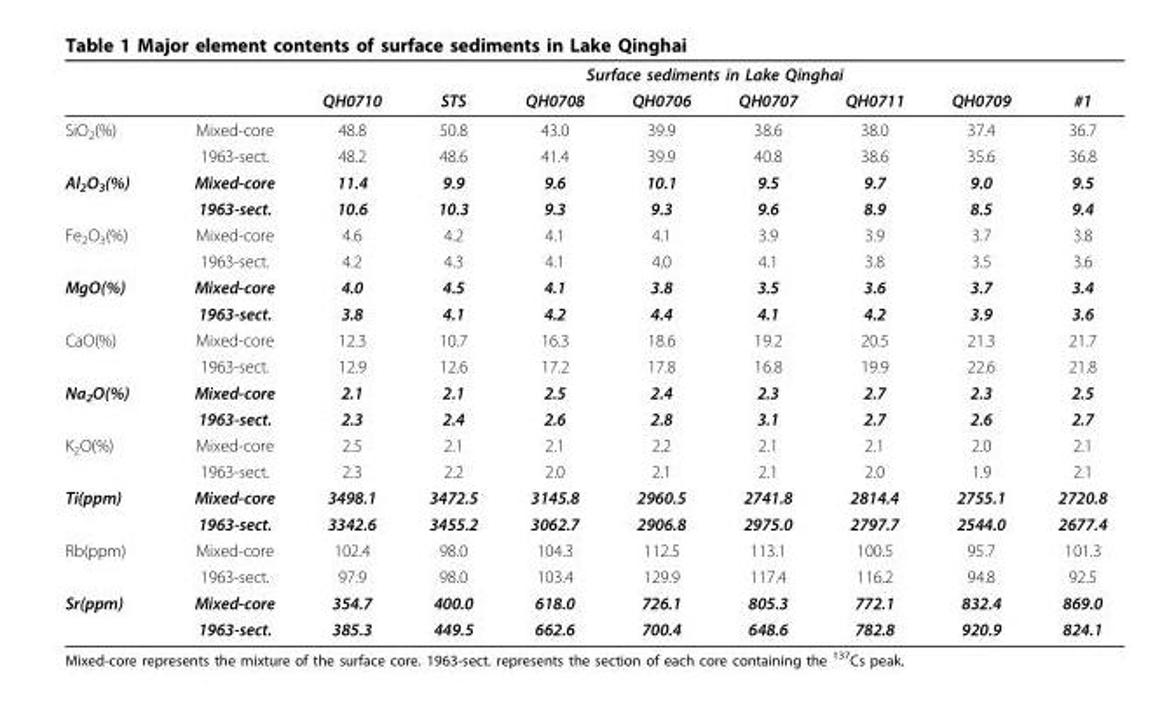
<table><thead><tr><td rowspan="2"></td><td rowspan="2"></td><td colspan="8">Surface sediments in Lake Qinghai</td></tr><tr><td>QH0710</td><td>STS</td><td>QH0708</td><td>QH0706</td><td>QH0707</td><td>QH0711</td><td>QH0709</td><td>#1</td></tr></thead><tbody><tr><td rowspan="2">SiO<sub>2</sub>(%)</td><td>Mixed-core</td><td>48.8</td><td>50.8</td><td>43.0</td><td>39.9</td><td>38.6</td><td>38.0</td><td>37.4</td><td>36.7</td></tr><tr><td>1963-sect.</td><td>48.2</td><td>48.6</td><td>41.4</td><td>39.9</td><td>40.8</td><td>38.6</td><td>35.6</td><td>36.8</td></tr><tr><td rowspan="2">Al<sub>2</sub>O<sub>3</sub>(%)</td><td>Mixed-core</td><td>11.4</td><td>9.9</td><td>9.6</td><td>10.1</td><td>9.5</td><td>9.7</td><td>9.0</td><td>9.5</td></tr><tr><td>1963-sect.</td><td>10.6</td><td>10.3</td><td>9.3</td><td>9.3</td><td>9.6</td><td>8.9</td><td>8.5</td><td>9.4</td></tr><tr><td rowspan="2">Fe<sub>2</sub>O<sub>3</sub>(%)</td><td>Mixed-core</td><td>4.6</td><td>4.2</td><td>4.1</td><td>4.1</td><td>3.9</td><td>3.9</td><td>3.7</td><td>3.8</td></tr><tr><td>1963-sect.</td><td>4.2</td><td>4.3</td><td>4.1</td><td>4.0</td><td>4.1</td><td>3.8</td><td>3.5</td><td>3.6</td></tr><tr><td rowspan="2">MgO(%)</td><td>Mixed-core</td><td>4.0</td><td>4.5</td><td>4.1</td><td>3.8</td><td>3.5</td><td>3.6</td><td>3.7</td><td>3.4</td></tr><tr><td>1963-sect.</td><td>3.8</td><td>4.1</td><td>4.2</td><td>4.4</td><td>4.1</td><td>4.2</td><td>3.9</td><td>3.6</td></tr><tr><td rowspan="2">CaO(%)</td><td>Mixed-core</td><td>12.3</td><td>10.7</td><td>16.3</td><td>18.6</td><td>19.2</td><td>20.5</td><td>21.3</td><td>21.7</td></tr><tr><td>1963-sect.</td><td>12.9</td><td>12.6</td><td>17.2</td><td>17.8</td><td>16.8</td><td>19.9</td><td>22.6</td><td>21.8</td></tr><tr><td rowspan="2">Na<sub>2</sub>O(%)</td><td>Mixed-core</td><td>2.1</td><td>2.1</td><td>2.5</td><td>2.4</td><td>2.3</td><td>2.7</td><td>2.3</td><td>2.5</td></tr><tr><td>1963-sect.</td><td>2.3</td><td>2.4</td><td>2.6</td><td>2.8</td><td>3.1</td><td>2.7</td><td>2.6</td><td>2.7</td></tr><tr><td rowspan="2">K<sub>2</sub>O(%)</td><td>Mixed-core</td><td>2.5</td><td>2.1</td><td>2.1</td><td>2.2</td><td>2.1</td><td>2.1</td><td>2.0</td><td>2.1</td></tr><tr><td>1963-sect.</td><td>2.3</td><td>2.2</td><td>2.0</td><td>2.1</td><td>2.1</td><td>2.0</td><td>1.9</td><td>2.1</td></tr><tr><td rowspan="2">Ti(ppm)</td><td>Mixed-core</td><td>3498.1</td><td>3472.5</td><td>3145.8</td><td>2960.5</td><td>2741.8</td><td>2814.4</td><td>2755.1</td><td>2720.8</td></tr><tr><td>1963-sect.</td><td>3342.6</td><td>3455.2</td><td>3062.7</td><td>2906.8</td><td>2975.0</td><td>2797.7</td><td>2544.0</td><td>2677.4</td></tr><tr><td rowspan="2">Rb(ppm)</td><td>Mixed-core</td><td>102.4</td><td>98.0</td><td>104.3</td><td>112.5</td><td>113.1</td><td>100.5</td><td>95.7</td><td>101.3</td></tr><tr><td>1963-sect.</td><td>97.9</td><td>98.0</td><td>103.4</td><td>129.9</td><td>117.4</td><td>116.2</td><td>94.8</td><td>92.5</td></tr><tr><td rowspan="2">Sr(ppm)</td><td>Mixed-core</td><td>354.7</td><td>400.0</td><td>618.0</td><td>726.1</td><td>805.3</td><td>772.1</td><td>832.4</td><td>869.0</td></tr><tr><td>1963-sect.</td><td>385.3</td><td>449.5</td><td>662.6</td><td>700.4</td><td>648.6</td><td>782.8</td><td>920.9</td><td>824.1</td></tr></tbody></table>